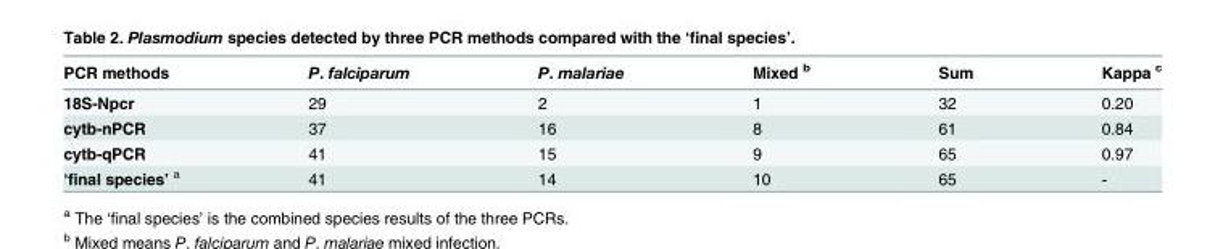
<table><thead><tr><td>PCR methods</td><td>P. falciparum</td><td>P. malariae</td><td>Mixed <sup>b</sup></td><td>Sum</td><td>Kappa <sup>c</sup></td></tr></thead><tbody><tr><td>18S-Npcr</td><td>29</td><td>2</td><td>1</td><td>32</td><td>0.20</td></tr><tr><td>cytb-nPCR</td><td>37</td><td>16</td><td>8</td><td>61</td><td>0.84</td></tr><tr><td>cytb-qPCR</td><td>41</td><td>15</td><td>9</td><td>65</td><td>0.97</td></tr><tr><td>‘final species’ <sup>a</sup></td><td>41</td><td>14</td><td>10</td><td>65</td><td>-</td></tr></tbody></table>